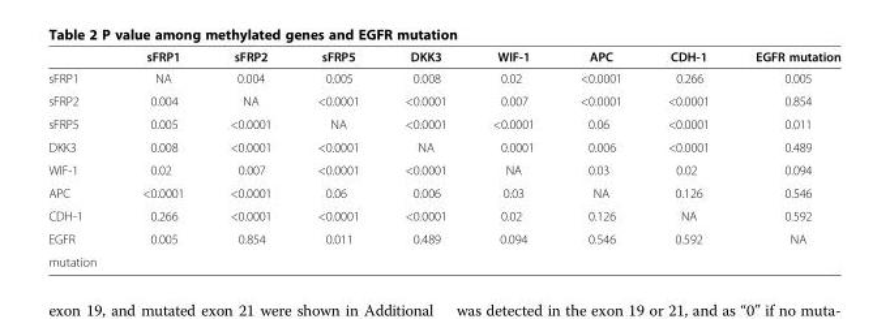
<table><thead><tr><td></td><td>sFRP1</td><td>sFRP2</td><td>sFRP5</td><td>DKK3</td><td>WIF-1</td><td>APC</td><td>CDH-1</td><td>EGFR mutation</td></tr></thead><tbody><tr><td>sFRP1</td><td>NA</td><td>0.004</td><td>0.005</td><td>0.008</td><td>0.02</td><td>&lt;0.0001</td><td>0.266</td><td>0.005</td></tr><tr><td>sFRP2</td><td>0.004</td><td>NA</td><td>&lt;0.0001</td><td>&lt;0.0001</td><td>0.007</td><td>&lt;0.0001</td><td>&lt;0.0001</td><td>0.854</td></tr><tr><td>sFRP5</td><td>0.005</td><td>&lt;0.0001</td><td>NA</td><td>&lt;0.0001</td><td>&lt;0.0001</td><td>0.06</td><td>&lt;0.0001</td><td>0.011</td></tr><tr><td>DKK3</td><td>0.008</td><td>&lt;0.0001</td><td>&lt;0.0001</td><td>NA</td><td>0.0001</td><td>0.006</td><td>&lt;0.0001</td><td>0.489</td></tr><tr><td>WIF-1</td><td>0.02</td><td>0.007</td><td>&lt;0.0001</td><td>&lt;0.0001</td><td>NA</td><td>0.03</td><td>0.02</td><td>0.094</td></tr><tr><td>APC</td><td>&lt;0.0001</td><td>&lt;0.0001</td><td>0.06</td><td>0.006</td><td>0.03</td><td>NA</td><td>0.126</td><td>0.546</td></tr><tr><td>CDH-1</td><td>0.266</td><td>&lt;0.0001</td><td>&lt;0.0001</td><td>&lt;0.0001</td><td>0.02</td><td>0.126</td><td>NA</td><td>0.592</td></tr><tr><td>EGFR</td><td>0.005</td><td>0.854</td><td>0.011</td><td>0.489</td><td>0.094</td><td>0.546</td><td>0.592</td><td>NA</td></tr><tr><td>mutation</td><td></td><td></td><td></td><td></td><td></td><td></td><td></td><td></td></tr></tbody></table>